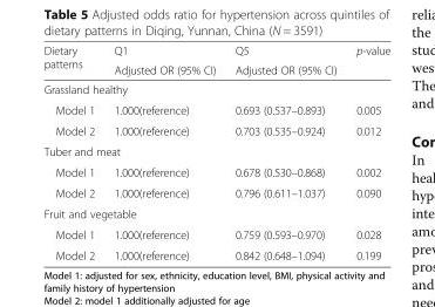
<table><thead><tr><td rowspan="2">Dietary patterns</td><td rowspan="2">Q1 Adjusted OR (95% CI)</td><td rowspan="2">Q5 Adjusted OR (95% CI)</td><td rowspan="2">p-value</td></tr><tr></tr></thead><tbody><tr><td colspan="4">Grassland healthy</td></tr><tr><td>Model 1</td><td>1.000(reference)</td><td>0.693 (0.537–0.893)</td><td>0.005</td></tr><tr><td>Model 2</td><td>1.000(reference)</td><td>0.703 (0.535–0.924)</td><td>0.012</td></tr><tr><td colspan="4">Tuber and meat</td></tr><tr><td>Model 1</td><td>1.000(reference)</td><td>0.678 (0.530–0.868)</td><td>0.002</td></tr><tr><td>Model 2</td><td>1.000(reference)</td><td>0.796 (0.611–1.037)</td><td>0.090</td></tr><tr><td colspan="4">Fruit and vegetable</td></tr><tr><td>Model 1</td><td>1.000(reference)</td><td>0.759 (0.593–0.970)</td><td>0.028</td></tr><tr><td>Model 2</td><td>1.000(reference)</td><td>0.842 (0.648–1.094)</td><td>0.199</td></tr></tbody></table>